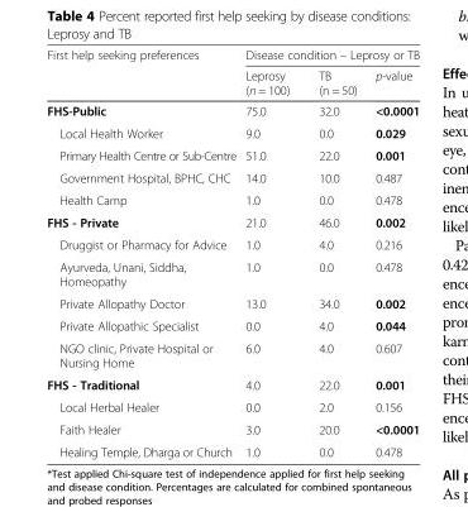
<table><thead><tr><td rowspan="2">First help seeking preferences</td><td colspan="3">Disease condition – Leprosy or TB</td></tr><tr><td>Leprosy (n = 100)</td><td>TB (n = 50)</td><td>p-value</td></tr></thead><tbody><tr><td>FHS-Public</td><td>75.0</td><td>32.0</td><td>&lt;0.0001</td></tr><tr><td>Local Health Worker</td><td>9.0</td><td>0.0</td><td>0.029</td></tr><tr><td>Primary Health Centre or Sub-Centre</td><td>51.0</td><td>22.0</td><td>0.001</td></tr><tr><td>Government Hospital, BPHC, CHC</td><td>14.0</td><td>10.0</td><td>0.487</td></tr><tr><td>Health Camp</td><td>1.0</td><td>0.0</td><td>0.478</td></tr><tr><td>FHS - Private</td><td>21.0</td><td>46.0</td><td>0.002</td></tr><tr><td>Druggist or Pharmacy for Advice</td><td>1.0</td><td>4.0</td><td>0.216</td></tr><tr><td>Ayurveda, Unani, Siddha, Homeopathy</td><td>1.0</td><td>0.0</td><td>0.478</td></tr><tr><td>Private Allopathy Doctor</td><td>13.0</td><td>34.0</td><td>0.002</td></tr><tr><td>Private Allopathic Specialist</td><td>0.0</td><td>4.0</td><td>0.044</td></tr><tr><td>NGO clinic, Private Hospital or Nursing Home</td><td>6.0</td><td>4.0</td><td>0.607</td></tr><tr><td>FHS - Traditional</td><td>4.0</td><td>22.0</td><td>0.001</td></tr><tr><td>Local Herbal Healer</td><td>0.0</td><td>2.0</td><td>0.156</td></tr><tr><td>Faith Healer</td><td>3.0</td><td>20.0</td><td>&lt;0.0001</td></tr><tr><td>Healing Temple, Dharga or Church</td><td>1.0</td><td>0.0</td><td>0.478</td></tr></tbody></table>